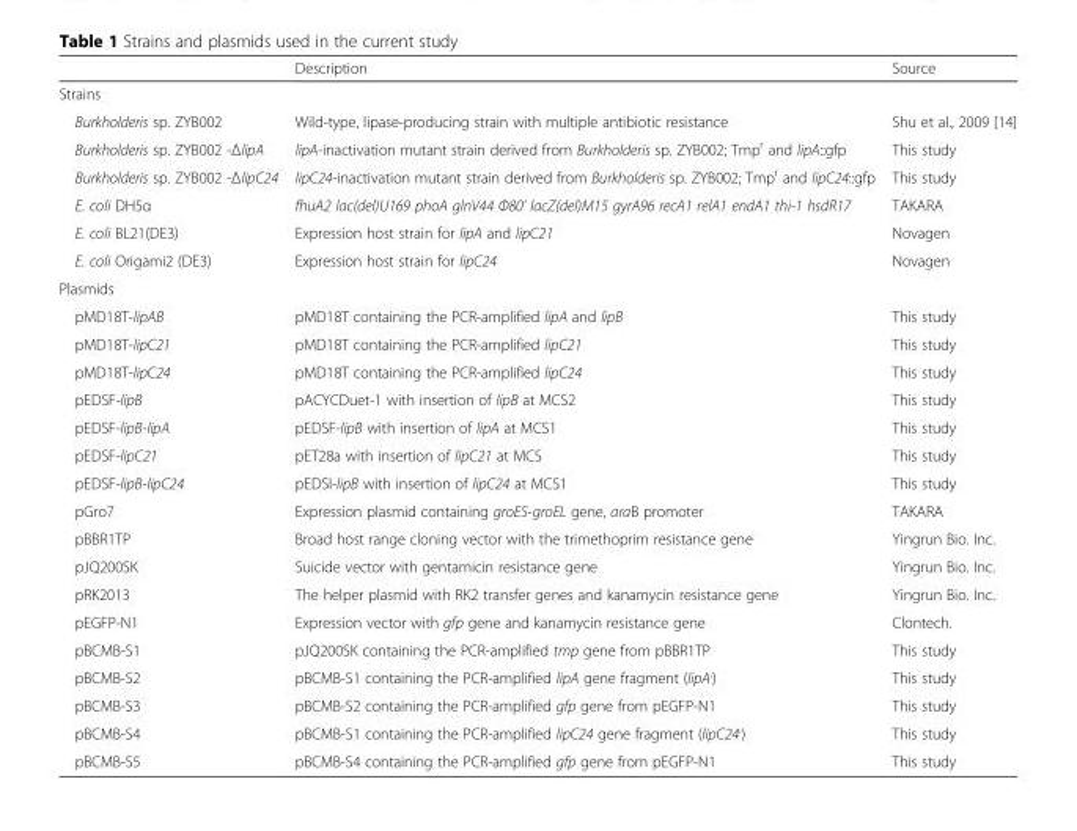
<table><thead><tr><td></td><td>Description</td><td>Source</td></tr></thead><tbody><tr><td colspan="3">Strains</td></tr><tr><td>Burkholderis sp. ZYB002</td><td>Wild-type, lipase-producing strain with multiple antibiotic resistance</td><td>Shu et al., 2009 [14]</td></tr><tr><td>Burkholderis sp. ZYB002 -ΔlipA</td><td>lipA-inactivation mutant strain derived from Burkholderis sp. ZYB002; Tmp<sup>r</sup> and lipA::gfp</td><td>This study</td></tr><tr><td>Burkholderis sp. ZYB002 -ΔlipC24</td><td>lipC24-inactivation mutant strain derived from Burkholderis sp. ZYB002; Tmp<sup>r</sup> and lipC24::gfp</td><td>This study</td></tr><tr><td>E. coli DH5α</td><td>fhuA2 lac(del)U169 phoA glnV44 Φ80’ lacZ(del)M15 gyrA96 recA1 relA1 endA1 thi-1 hsdR17</td><td>TAKARA</td></tr><tr><td>E. coli BL21(DE3)</td><td>Expression host strain for lipA and lipC21</td><td>Novagen</td></tr><tr><td>E. coli Origami2 (DE3)</td><td>Expression host strain for lipC24</td><td>Novagen</td></tr><tr><td colspan="3">Plasmids</td></tr><tr><td>pMD18T-lipAB</td><td>pMD18T containing the PCR-amplified lipA and lipB</td><td>This study</td></tr><tr><td>pMD18T-lipC21</td><td>pMD18T containing the PCR-amplified lipC21</td><td>This study</td></tr><tr><td>pMD18T-lipC24</td><td>pMD18T containing the PCR-amplified lipC24</td><td>This study</td></tr><tr><td>pEDSF-lipB</td><td>pACYCDuet-1 with insertion of lipB at MCS2</td><td>This study</td></tr><tr><td>pEDSF-lipB-lipA</td><td>pEDSF-lipB with insertion of lipA at MCS1</td><td>This study</td></tr><tr><td>pEDSF-lipC21</td><td>pET28a with insertion of lipC21 at MCS</td><td>This study</td></tr><tr><td>pEDSF-lipB-lipC24</td><td>pEDSI-lipB with insertion of lipC24 at MCS1</td><td>This study</td></tr><tr><td>pGro7</td><td>Expression plasmid containing groES-groEL gene, araB promoter</td><td>TAKARA</td></tr><tr><td>pBBR1TP</td><td>Broad host range cloning vector with the trimethoprim resistance gene</td><td>Yingrun Bio. Inc.</td></tr><tr><td>pJQ200SK</td><td>Suicide vector with gentamicin resistance gene</td><td>Yingrun Bio. Inc.</td></tr><tr><td>pRK2013</td><td>The helper plasmid with RK2 transfer genes and kanamycin resistance gene</td><td>Yingrun Bio. Inc.</td></tr><tr><td>pEGFP-N1</td><td>Expression vector with gfp gene and kanamycin resistance gene</td><td>Clontech.</td></tr><tr><td>pBCMB-S1</td><td>pJQ200SK containing the PCR-amplified tmp gene from pBBR1TP</td><td>This study</td></tr><tr><td>pBCMB-S2</td><td>pBCMB-S1 containing the PCR-amplified lipA gene fragment (lipA<sup>,</sup>)</td><td>This study</td></tr><tr><td>pBCMB-S3</td><td>pBCMB-S2 containing the PCR-amplified gfp gene from pEGFP-N1</td><td>This study</td></tr><tr><td>pBCMB-S4</td><td>pBCMB-S1 containing the PCR-amplified lipC24 gene fragment (lipC24<sup>,</sup>)</td><td>This study</td></tr><tr><td>pBCMB-S5</td><td>pBCMB-S4 containing the PCR-amplified gfp gene from pEGFP-N1</td><td>This study</td></tr></tbody></table>